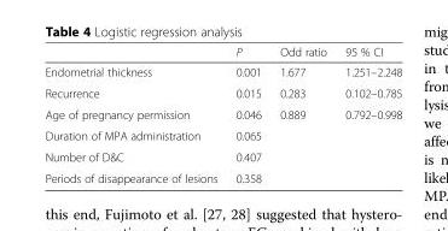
<table><thead><tr><td></td><td>P</td><td>Odd ratio</td><td>95 % CI</td></tr></thead><tbody><tr><td>Endometrial thickness</td><td>0.001</td><td>1.677</td><td>1.251–2.248</td></tr><tr><td>Recurrence</td><td>0.015</td><td>0.283</td><td>0.102–0.785</td></tr><tr><td>Age of pregnancy permission</td><td>0.046</td><td>0.889</td><td>0.792–0.998</td></tr><tr><td>Duration of MPA administration</td><td>0.065</td><td></td><td></td></tr><tr><td>Number of D&amp;C</td><td>0.407</td><td></td><td></td></tr><tr><td>Periods of disappearance of lesions</td><td>0.358</td><td></td><td></td></tr></tbody></table>